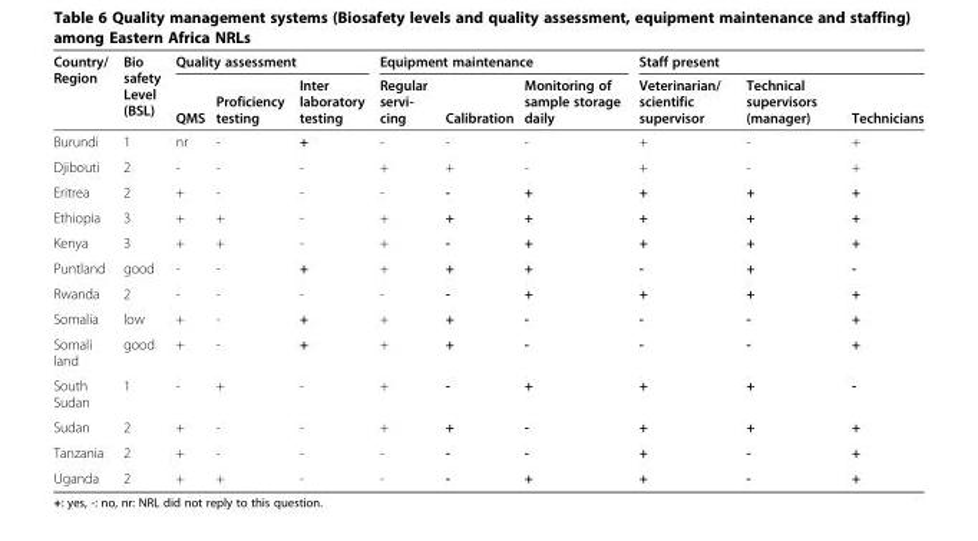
<table><thead><tr><td rowspan="2">Country/ Region</td><td rowspan="2">Bio safety Level (BSL)</td><td colspan="3">Quality assessment</td><td colspan="3">Equipment maintenance</td><td colspan="3">Staff present</td></tr><tr><td>QMS</td><td>Proficiency testing</td><td>Inter laboratory testing</td><td>Regular servi- cing</td><td>Calibration</td><td>Monitoring of sample storage daily</td><td>Veterinarian/ scientific supervisor</td><td>Technical supervisors (manager)</td><td>Technicians</td></tr></thead><tbody><tr><td>Burundi</td><td>1</td><td>nr</td><td>-</td><td>+</td><td>-</td><td>-</td><td>-</td><td>+</td><td>-</td><td>+</td></tr><tr><td>Djibouti</td><td>2</td><td>-</td><td>-</td><td>-</td><td>+</td><td>+</td><td>-</td><td>+</td><td>-</td><td>+</td></tr><tr><td>Eritrea</td><td>2</td><td>+</td><td>-</td><td>-</td><td>-</td><td>-</td><td>+</td><td>+</td><td>+</td><td>+</td></tr><tr><td>Ethiopia</td><td>3</td><td>+</td><td>+</td><td>-</td><td>+</td><td>+</td><td>+</td><td>+</td><td>+</td><td>+</td></tr><tr><td>Kenya</td><td>3</td><td>+</td><td>+</td><td>-</td><td>+</td><td>-</td><td>+</td><td>+</td><td>+</td><td>+</td></tr><tr><td>Puntland</td><td>good</td><td>-</td><td>-</td><td>+</td><td>+</td><td>+</td><td>+</td><td>-</td><td>+</td><td>-</td></tr><tr><td>Rwanda</td><td>2</td><td>-</td><td>-</td><td>-</td><td>-</td><td>-</td><td>+</td><td>+</td><td>+</td><td>+</td></tr><tr><td>Somalia</td><td>low</td><td>+</td><td>-</td><td>+</td><td>+</td><td>+</td><td>-</td><td>-</td><td>-</td><td>+</td></tr><tr><td>Somali land</td><td>good</td><td>+</td><td>-</td><td>+</td><td>+</td><td>+</td><td>-</td><td>-</td><td>-</td><td>+</td></tr><tr><td>South Sudan</td><td>1</td><td>-</td><td>+</td><td>-</td><td>+</td><td>-</td><td>+</td><td>+</td><td>+</td><td>-</td></tr><tr><td>Sudan</td><td>2</td><td>+</td><td>-</td><td>-</td><td>+</td><td>+</td><td>-</td><td>+</td><td>+</td><td>+</td></tr><tr><td>Tanzania</td><td>2</td><td>+</td><td>-</td><td>-</td><td>-</td><td>-</td><td>-</td><td>+</td><td>-</td><td>+</td></tr><tr><td>Uganda</td><td>2</td><td>+</td><td>+</td><td>-</td><td>-</td><td>-</td><td>+</td><td>+</td><td>-</td><td>+</td></tr></tbody></table>